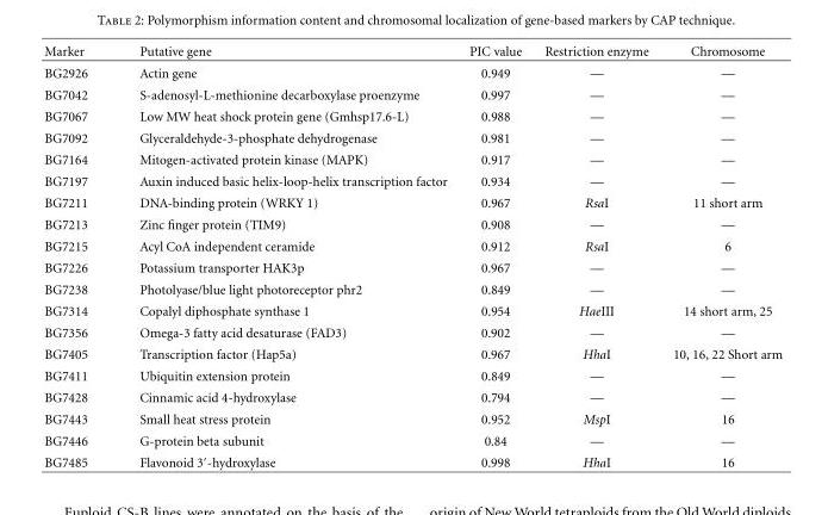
<table><thead><tr><td>Marker</td><td>Putative gene</td><td>PIC value</td><td>Restriction enzyme</td><td>Chromosome</td></tr></thead><tbody><tr><td>BG2926</td><td>Actin gene</td><td>0.949</td><td>—</td><td>—</td></tr><tr><td>BG7042</td><td>S-adenosyl-L-methionine decarboxylase proenzyme</td><td>0.997</td><td>—</td><td>—</td></tr><tr><td>BG7067</td><td>Low MW heat shock protein gene (Gmhsp17.6-L)</td><td>0.988</td><td>—</td><td>—</td></tr><tr><td>BG7092</td><td>Glyceraldehyde-3-phosphate dehydrogenase</td><td>0.981</td><td>—</td><td>—</td></tr><tr><td>BG7164</td><td>Mitogen-activated protein kinase (MAPK)</td><td>0.917</td><td>—</td><td>—</td></tr><tr><td>BG7197</td><td>Auxin induced basic helix-loop-helix transcription factor</td><td>0.934</td><td>—</td><td>—</td></tr><tr><td>BG7211</td><td>DNA-binding protein (WRKY 1)</td><td>0.967</td><td>RsaI</td><td>11 short arm</td></tr><tr><td>BG7213</td><td>Zinc finger protein (TIM9)</td><td>0.908</td><td>—</td><td>—</td></tr><tr><td>BG7215</td><td>Acyl CoA independent ceramide</td><td>0.912</td><td>RsaI</td><td>6</td></tr><tr><td>BG7226</td><td>Potassium transporter HAK3p</td><td>0.967</td><td>—</td><td>—</td></tr><tr><td>BG7238</td><td>Photolyase/blue light photoreceptor phr2</td><td>0.849</td><td>—</td><td>—</td></tr><tr><td>BG7314</td><td>Copalyl diphosphate synthase 1</td><td>0.954</td><td>HaeIII</td><td>14 short arm, 25</td></tr><tr><td>BG7356</td><td>Omega-3 fatty acid desaturase (FAD3)</td><td>0.902</td><td>—</td><td>—</td></tr><tr><td>BG7405</td><td>Transcription factor (Hap5a)</td><td>0.967</td><td>HhaI</td><td>10, 16, 22 Short arm</td></tr><tr><td>BG7411</td><td>Ubiquitin extension protein</td><td>0.849</td><td>—</td><td>—</td></tr><tr><td>BG7428</td><td>Cinnamic acid 4-hydroxylase</td><td>0.794</td><td>—</td><td>—</td></tr><tr><td>BG7443</td><td>Small heat stress protein</td><td>0.952</td><td>MspI</td><td>16</td></tr><tr><td>BG7446</td><td>G-protein beta subunit</td><td>0.84</td><td>—</td><td>—</td></tr><tr><td>BG7485</td><td>Flavonoid 3′-hydroxylase</td><td>0.998</td><td>HhaI</td><td>16</td></tr></tbody></table>